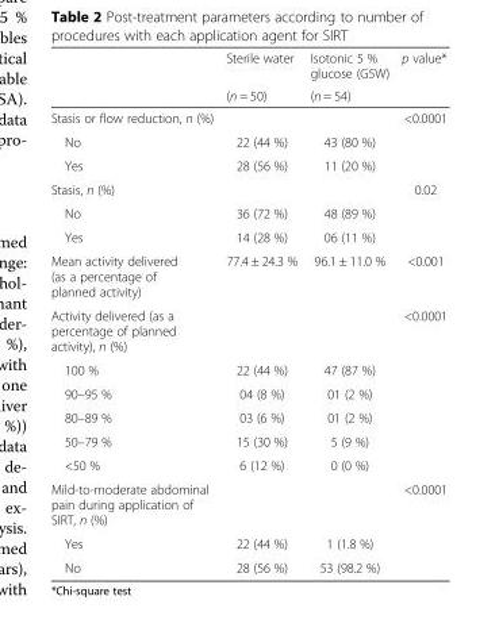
<table><thead><tr><td rowspan="2"></td><td rowspan="2">Sterile water (n = 50)</td><td rowspan="2">Isotonic 5 % glucose (G5W) (n = 54)</td><td rowspan="2">p value*</td></tr><tr></tr></thead><tbody><tr><td colspan="3">Stasis or flow reduction, n (%)</td><td rowspan="3">&lt;0.0001</td></tr><tr><td>No</td><td>22 (44 %)</td><td>43 (80 %)</td></tr><tr><td>Yes</td><td>28 (56 %)</td><td>11 (20 %)</td></tr><tr><td colspan="3">Stasis, n (%)</td><td rowspan="3">0.02</td></tr><tr><td>No</td><td>36 (72 %)</td><td>48 (89 %)</td></tr><tr><td>Yes</td><td>14 (28 %)</td><td>06 (11 %)</td></tr><tr><td>Mean activity delivered (as a percentage of planned activity)</td><td>77.4 ± 24.3 %</td><td>96.1 ± 11.0 %</td><td>&lt;0.001</td></tr><tr><td colspan="3">Activity delivered (as a percentage of planned activity), n (%)</td><td rowspan="6">&lt;0.0001</td></tr><tr><td>100 %</td><td>22 (44 %)</td><td>47 (87 %)</td></tr><tr><td>90–95 %</td><td>04 (8 %)</td><td>01 (2 %)</td></tr><tr><td>80–89 %</td><td>03 (6 %)</td><td>01 (2 %)</td></tr><tr><td>50–79 %</td><td>15 (30 %)</td><td>5 (9 %)</td></tr><tr><td>&lt;50 %</td><td>6 (12 %)</td><td>0 (0 %)</td></tr><tr><td colspan="3">Mild-to-moderate abdominal pain during application of SIRT, n (%)</td><td rowspan="3">&lt;0.0001</td></tr><tr><td>Yes</td><td>22 (44 %)</td><td>1 (1.8 %)</td></tr><tr><td>No</td><td>28 (56 %)</td><td>53 (98.2 %)</td></tr></tbody></table>